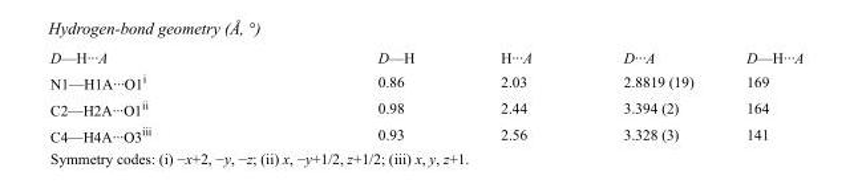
<table><tbody><tr><td>D—H···A</td><td>D—H</td><td>H···A</td><td>D···A</td><td>D—H···A</td></tr><tr><td>N1—H1A···O1<sup>i</sup></td><td>0.86</td><td>2.03</td><td>2.8819 (19)</td><td>169</td></tr><tr><td>C2—H2A···O1<sup>ii</sup></td><td>0.98</td><td>2.44</td><td>3.394 (2)</td><td>164</td></tr><tr><td>C4—H4A···O3<sup>iii</sup></td><td>0.93</td><td>2.56</td><td>3.328 (3)</td><td>141</td></tr></tbody></table>